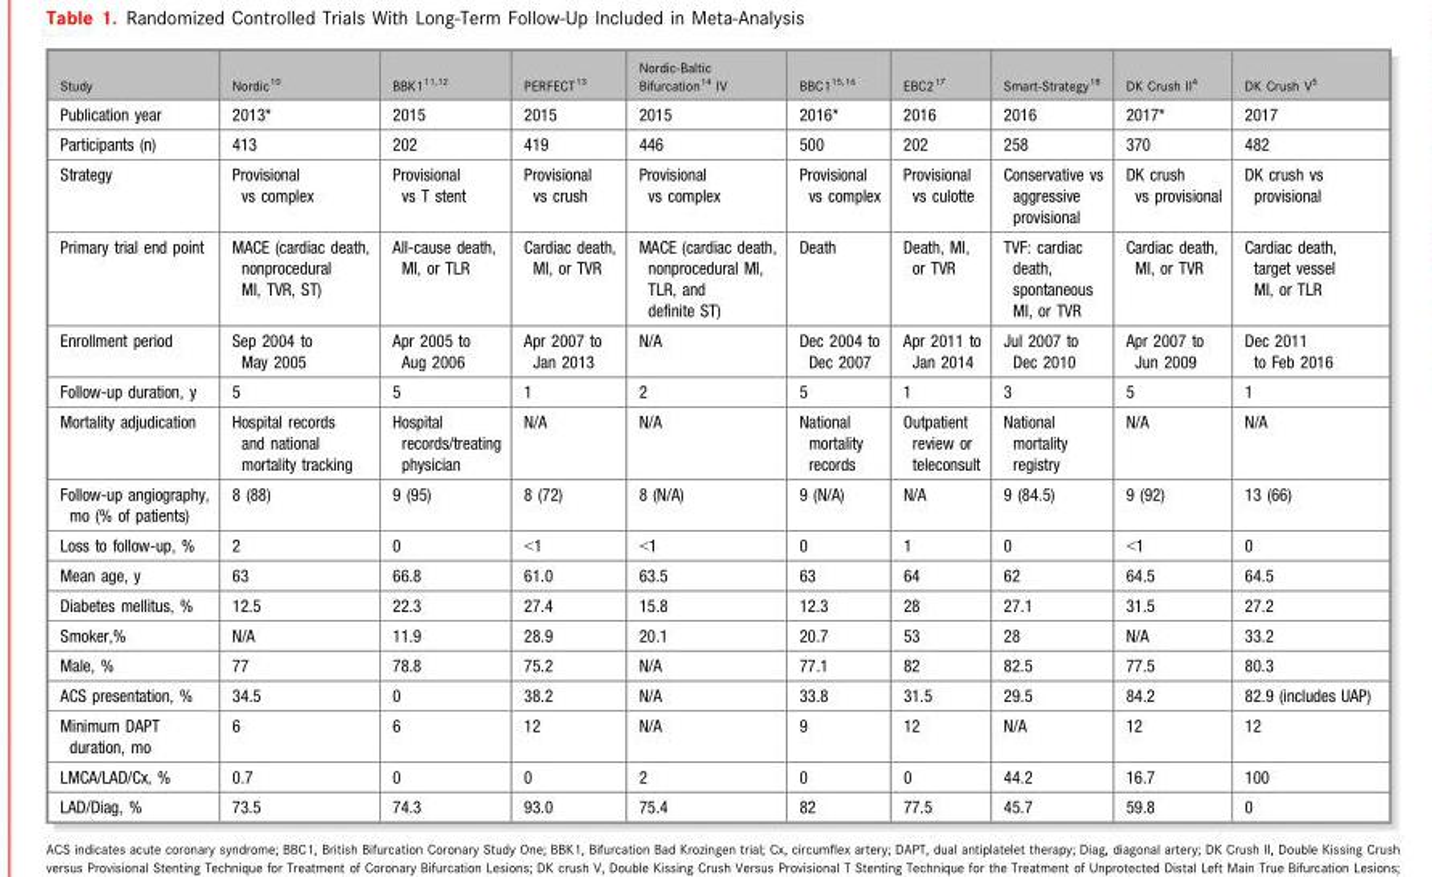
<table><thead><tr><td>Study</td><td>Nordic<sup>10</sup></td><td>BBK1<sup>11</sup>,<sup>12</sup></td><td>PERFECT<sup>13</sup></td><td>Nordic-Baltic Bifurcation<sup>14</sup> IV</td><td>BBC1<sup>15</sup>,<sup>16</sup></td><td>EBC2<sup>17</sup></td><td>Smart-Strategy<sup>18</sup></td><td>DK Crush II<sup>4</sup></td><td>DK Crush V<sup>5</sup></td></tr></thead><tbody><tr><td>Publication year</td><td>2013*</td><td>2015</td><td>2015</td><td>2015</td><td>2016*</td><td>2016</td><td>2016</td><td>2017*</td><td>2017</td></tr><tr><td>Participants (n)</td><td>413</td><td>202</td><td>419</td><td>446</td><td>500</td><td>202</td><td>258</td><td>370</td><td>482</td></tr><tr><td>Strategy</td><td>Provisional vs complex</td><td>Provisional vs T stent</td><td>Provisional vs crush</td><td>Provisional vs complex</td><td>Provisional vs complex</td><td>Provisional vs culotte</td><td>Conservative vs aggressive provisional</td><td>DK crush vs provisional</td><td>DK crush vs provisional</td></tr><tr><td>Primary trial end point</td><td>MACE (cardiac death, nonprocedural MI, TVR, ST)</td><td>All-cause death, MI, or TLR</td><td>Cardiac death, MI, or TVR</td><td>MACE (cardiac death, nonprocedural MI, TLR, and definite ST)</td><td>Death</td><td>Death, MI, or TVR</td><td>TVF: cardiac death, spontaneous MI, or TVR</td><td>Cardiac death, MI, or TVR</td><td>Cardiac death, target vessel MI, or TLR</td></tr><tr><td>Enrollment period</td><td>Sep 2004 to May 2005</td><td>Apr 2005 to Aug 2006</td><td>Apr 2007 to Jan 2013</td><td>N/A</td><td>Dec 2004 to Dec 2007</td><td>Apr 2011 to Jan 2014</td><td>Jul 2007 to Dec 2010</td><td>Apr 2007 to Jun 2009</td><td>Dec 2011 to Feb 2016</td></tr><tr><td>Follow-up duration, y</td><td>5</td><td>5</td><td>1</td><td>2</td><td>5</td><td>1</td><td>3</td><td>5</td><td>1</td></tr><tr><td>Mortality adjudication</td><td>Hospital records and national mortality tracking</td><td>Hospital records/treating physician</td><td>N/A</td><td>N/A</td><td>National mortality records</td><td>Outpatient review or teleconsult</td><td>National mortality registry</td><td>N/A</td><td>N/A</td></tr><tr><td>Follow-up angiography, mo (% of patients)</td><td>8 (88)</td><td>9 (95)</td><td>8 (72)</td><td>8 (N/A)</td><td>9 (N/A)</td><td>N/A</td><td>9 (84.5)</td><td>9 (92)</td><td>13 (66)</td></tr><tr><td>Loss to follow-up, %</td><td>2</td><td>0</td><td>&lt;1</td><td>&lt;1</td><td>0</td><td>1</td><td>0</td><td>&lt;1</td><td>0</td></tr><tr><td>Mean age, y</td><td>63</td><td>66.8</td><td>61.0</td><td>63.5</td><td>63</td><td>64</td><td>62</td><td>64.5</td><td>64.5</td></tr><tr><td>Diabetes mellitus, %</td><td>12.5</td><td>22.3</td><td>27.4</td><td>15.8</td><td>12.3</td><td>28</td><td>27.1</td><td>31.5</td><td>27.2</td></tr><tr><td>Smoker,%</td><td>N/A</td><td>11.9</td><td>28.9</td><td>20.1</td><td>20.7</td><td>53</td><td>28</td><td>N/A</td><td>33.2</td></tr><tr><td>Male, %</td><td>77</td><td>78.8</td><td>75.2</td><td>N/A</td><td>77.1</td><td>82</td><td>82.5</td><td>77.5</td><td>80.3</td></tr><tr><td>ACS presentation, %</td><td>34.5</td><td>0</td><td>38.2</td><td>N/A</td><td>33.8</td><td>31.5</td><td>29.5</td><td>84.2</td><td>82.9 (includes UAP)</td></tr><tr><td>Minimum DAPT duration, mo</td><td>6</td><td>6</td><td>12</td><td>N/A</td><td>9</td><td>12</td><td>N/A</td><td>12</td><td>12</td></tr><tr><td>LMCA/LAD/Cx, %</td><td>0.7</td><td>0</td><td>0</td><td>2</td><td>0</td><td>0</td><td>44.2</td><td>16.7</td><td>100</td></tr><tr><td>LAD/Diag, %</td><td>73.5</td><td>74.3</td><td>93.0</td><td>75.4</td><td>82</td><td>77.5</td><td>45.7</td><td>59.8</td><td>0</td></tr></tbody></table>